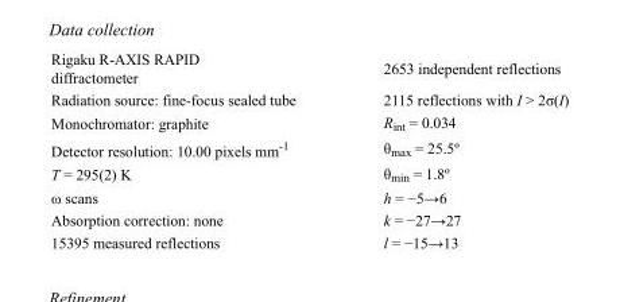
<table><tbody><tr><td>Rigaku R-AXIS RAPID diffractometer</td><td>2653 independent reflections</td></tr><tr><td>Radiation source: fine-focus sealed tube</td><td>2115 reflections with I &gt; 2σ(I)</td></tr><tr><td>Monochromator: graphite</td><td>R<sub>int</sub> = 0.034</td></tr><tr><td>Detector resolution: 10.00 pixels mm<sup>-1</sup></td><td>θ<sub>max</sub> = 25.5º</td></tr><tr><td>T = 295(2) K</td><td>θ<sub>min</sub> = 1.8º</td></tr><tr><td>ω scans</td><td>h = −5→6</td></tr><tr><td>Absorption correction: none</td><td>k = −27→27</td></tr><tr><td>15395 measured reflections</td><td>l = −15→13</td></tr></tbody></table>